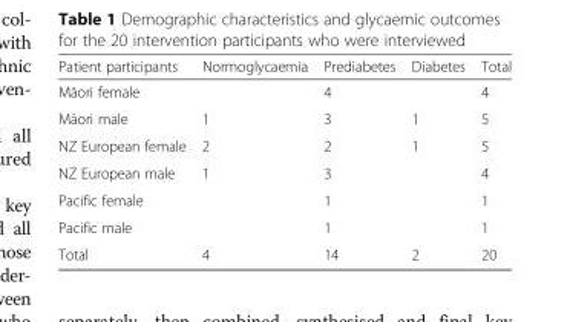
<table><thead><tr><td>Patient participants</td><td>Normoglycaemia</td><td>Prediabetes</td><td>Diabetes</td><td>Total</td></tr></thead><tbody><tr><td>Māori female</td><td></td><td>4</td><td></td><td>4</td></tr><tr><td>Māori male</td><td>1</td><td>3</td><td>1</td><td>5</td></tr><tr><td>NZ European female</td><td>2</td><td>2</td><td>1</td><td>5</td></tr><tr><td>NZ European male</td><td>1</td><td>3</td><td></td><td>4</td></tr><tr><td>Pacific female</td><td></td><td>1</td><td></td><td>1</td></tr><tr><td>Pacific male</td><td></td><td>1</td><td></td><td>1</td></tr><tr><td>Total</td><td>4</td><td>14</td><td>2</td><td>20</td></tr></tbody></table>